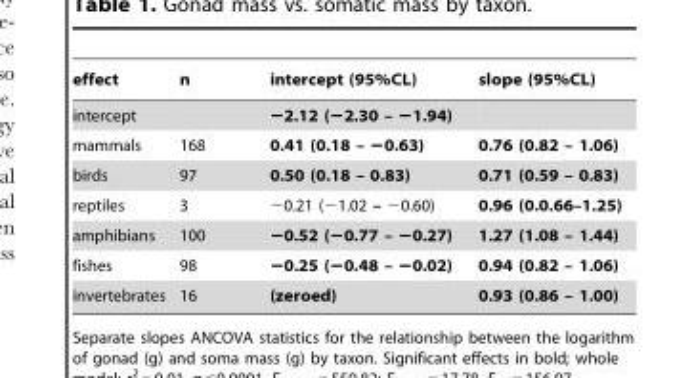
<table><thead><tr><td>effect</td><td>n</td><td>intercept (95%CL)</td><td>slope (95%CL)</td></tr></thead><tbody><tr><td>intercept</td><td></td><td>−2.12 (−2.30 – −1.94)</td><td></td></tr><tr><td>mammals</td><td>168</td><td>0.41 (0.18 – −0.63)</td><td>0.76 (0.82 – 1.06)</td></tr><tr><td>birds</td><td>97</td><td>0.50 (0.18 – 0.83)</td><td>0.71 (0.59 – 0.83)</td></tr><tr><td>reptiles</td><td>3</td><td>−0.21 (−1.02 – −0.60)</td><td>0.96 (0.0.66–1.25)</td></tr><tr><td>amphibians</td><td>100</td><td>−0.52 (−0.77 – −0.27)</td><td>1.27 (1.08 – 1.44)</td></tr><tr><td>fishes</td><td>98</td><td>−0.25 (−0.48 – −0.02)</td><td>0.94 (0.82 – 1.06)</td></tr><tr><td>invertebrates</td><td>16</td><td>(zeroed)</td><td>0.93 (0.86 – 1.00)</td></tr></tbody></table>